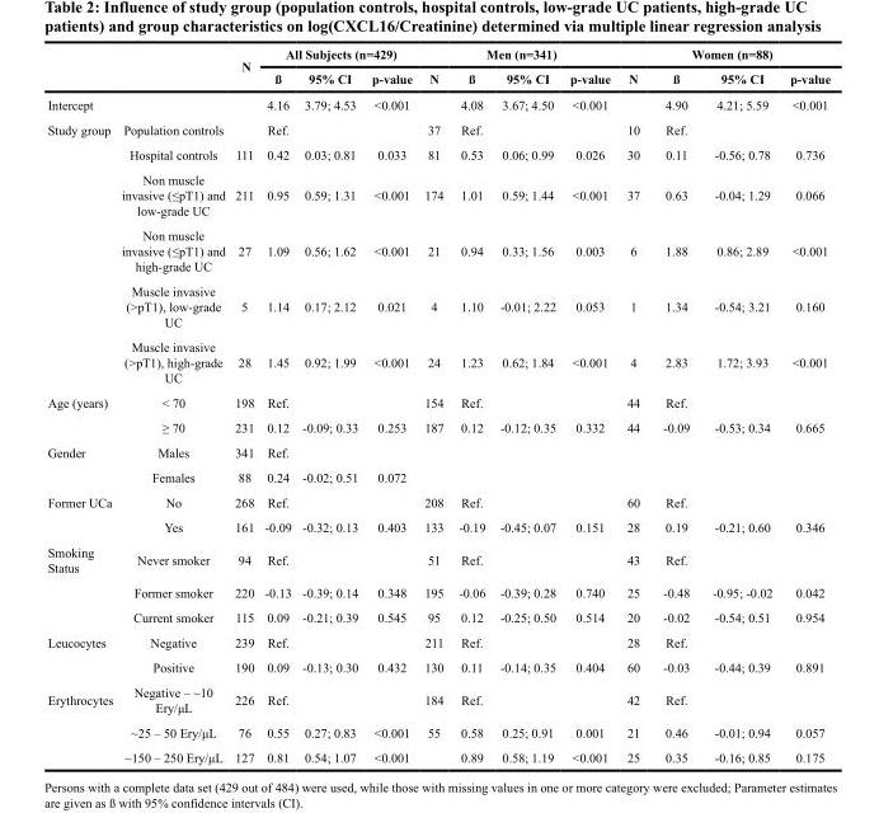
<table><thead><tr><td rowspan="2"></td><td rowspan="2"></td><td rowspan="2">N</td><td colspan="3">All Subjects (n=429)</td><td colspan="4">Men (n=341)</td><td colspan="4">Women (n=88)</td></tr><tr><td>ß</td><td>95% CI</td><td>p-value</td><td>N</td><td>ß</td><td>95% CI</td><td>p-value</td><td>N</td><td>ß</td><td>95% CI</td><td>p-value</td></tr></thead><tbody><tr><td>Intercept</td><td></td><td></td><td>4.16</td><td>3.79; 4.53</td><td>&lt;0.001</td><td></td><td>4.08</td><td>3.67; 4.50</td><td>&lt;0.001</td><td></td><td>4.90</td><td>4.21; 5.59</td><td>&lt;0.001</td></tr><tr><td rowspan="6">Study group</td><td>Population controls</td><td></td><td>Ref.</td><td></td><td></td><td>37</td><td>Ref.</td><td></td><td></td><td>10</td><td>Ref.</td><td></td><td></td></tr><tr><td>Hospital controls</td><td>111</td><td>0.42</td><td>0.03; 0.81</td><td>0.033</td><td>81</td><td>0.53</td><td>0.06; 0.99</td><td>0.026</td><td>30</td><td>0.11</td><td>-0.56; 0.78</td><td>0.736</td></tr><tr><td>Non muscle invasive (≤pT1) and low-grade UC</td><td>211</td><td>0.95</td><td>0.59; 1.31</td><td>&lt;0.001</td><td>174</td><td>1.01</td><td>0.59; 1.44</td><td>&lt;0.001</td><td>37</td><td>0.63</td><td>-0.04; 1.29</td><td>0.066</td></tr><tr><td>Non muscle invasive (≤pT1) and high-grade UC</td><td>27</td><td>1.09</td><td>0.56; 1.62</td><td>&lt;0.001</td><td>21</td><td>0.94</td><td>0.33; 1.56</td><td>0.003</td><td>6</td><td>1.88</td><td>0.86; 2.89</td><td>&lt;0.001</td></tr><tr><td>Muscle invasive (&gt;pT1), low-grade UC</td><td>5</td><td>1.14</td><td>0.17; 2.12</td><td>0.021</td><td>4</td><td>1.10</td><td>-0.01; 2.22</td><td>0.053</td><td>1</td><td>1.34</td><td>-0.54; 3.21</td><td>0.160</td></tr><tr><td>Muscle invasive (&gt;pT1), high-grade UC</td><td>28</td><td>1.45</td><td>0.92; 1.99</td><td>&lt;0.001</td><td>24</td><td>1.23</td><td>0.62; 1.84</td><td>&lt;0.001</td><td>4</td><td>2.83</td><td>1.72; 3.93</td><td>&lt;0.001</td></tr><tr><td rowspan="2">Age (years)</td><td>&lt; 70</td><td>198</td><td>Ref.</td><td></td><td></td><td>154</td><td>Ref.</td><td></td><td></td><td>44</td><td>Ref.</td><td></td><td></td></tr><tr><td>≥ 70</td><td>231</td><td>0.12</td><td>-0.09; 0.33</td><td>0.253</td><td>187</td><td>0.12</td><td>-0.12; 0.35</td><td>0.332</td><td>44</td><td>-0.09</td><td>-0.53; 0.34</td><td>0.665</td></tr><tr><td rowspan="2">Gender</td><td>Males</td><td>341</td><td>Ref.</td><td></td><td></td><td></td><td></td><td></td><td></td><td></td><td></td><td></td><td></td></tr><tr><td>Females</td><td>88</td><td>0.24</td><td>-0.02; 0.51</td><td>0.072</td><td></td><td></td><td></td><td></td><td></td><td></td><td></td><td></td></tr><tr><td rowspan="2">Former UCa</td><td>No</td><td>268</td><td>Ref.</td><td></td><td></td><td>208</td><td>Ref.</td><td></td><td></td><td>60</td><td>Ref.</td><td></td><td></td></tr><tr><td>Yes</td><td>161</td><td>-0.09</td><td>-0.32; 0.13</td><td>0.403</td><td>133</td><td>-0.19</td><td>-0.45; 0.07</td><td>0.151</td><td>28</td><td>0.19</td><td>-0.21; 0.60</td><td>0.346</td></tr><tr><td rowspan="3">Smoking Status</td><td>Never smoker</td><td>94</td><td>Ref.</td><td></td><td></td><td>51</td><td>Ref.</td><td></td><td></td><td>43</td><td>Ref.</td><td></td><td></td></tr><tr><td>Former smoker</td><td>220</td><td>-0.13</td><td>-0.39; 0.14</td><td>0.348</td><td>195</td><td>-0.06</td><td>-0.39; 0.28</td><td>0.740</td><td>25</td><td>-0.48</td><td>-0.95; -0.02</td><td>0.042</td></tr><tr><td>Current smoker</td><td>115</td><td>0.09</td><td>-0.21; 0.39</td><td>0.545</td><td>95</td><td>0.12</td><td>-0.25; 0.50</td><td>0.514</td><td>20</td><td>-0.02</td><td>-0.54; 0.51</td><td>0.954</td></tr><tr><td rowspan="2">Leucocytes</td><td>Negative</td><td>239</td><td>Ref.</td><td></td><td></td><td>211</td><td>Ref.</td><td></td><td></td><td>28</td><td>Ref.</td><td></td><td></td></tr><tr><td>Positive</td><td>190</td><td>0.09</td><td>-0.13; 0.30</td><td>0.432</td><td>130</td><td>0.11</td><td>-0.14; 0.35</td><td>0.404</td><td>60</td><td>-0.03</td><td>-0.44; 0.39</td><td>0.891</td></tr><tr><td rowspan="3">Erythrocytes</td><td>Negative – ~10 Ery/μL</td><td>226</td><td>Ref.</td><td></td><td></td><td>184</td><td>Ref.</td><td></td><td></td><td>42</td><td>Ref.</td><td></td><td></td></tr><tr><td>~25 – 50 Ery/μL</td><td>76</td><td>0.55</td><td>0.27; 0.83</td><td>&lt;0.001</td><td>55</td><td>0.58</td><td>0.25; 0.91</td><td>0.001</td><td>21</td><td>0.46</td><td>-0.01; 0.94</td><td>0.057</td></tr><tr><td>~150 – 250 Ery/μL</td><td>127</td><td>0.81</td><td>0.54; 1.07</td><td>&lt;0.001</td><td></td><td>0.89</td><td>0.58; 1.19</td><td>&lt;0.001</td><td>25</td><td>0.35</td><td>-0.16; 0.85</td><td>0.175</td></tr></tbody></table>